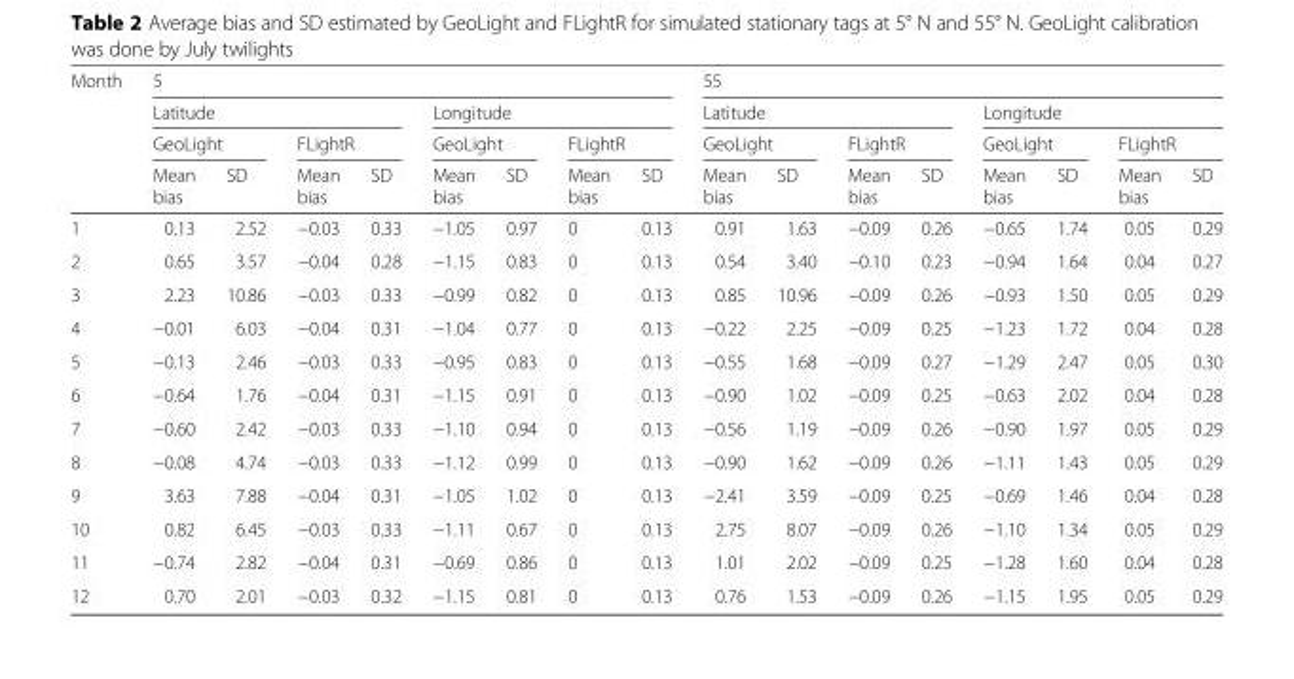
<table><thead><tr><td rowspan="4">Month</td><td colspan="8">5</td><td colspan="8">55</td></tr><tr><td colspan="4">Latitude</td><td colspan="4">Longitude</td><td colspan="4">Latitude</td><td colspan="4">Longitude</td></tr><tr><td colspan="2">GeoLight</td><td colspan="2">FLightR</td><td colspan="2">GeoLight</td><td colspan="2">FLightR</td><td colspan="2">GeoLight</td><td colspan="2">FLightR</td><td colspan="2">GeoLight</td><td colspan="2">FLightR</td></tr><tr><td>Mean bias</td><td>SD</td><td>Mean bias</td><td>SD</td><td>Mean bias</td><td>SD</td><td>Mean bias</td><td>SD</td><td>Mean bias</td><td>SD</td><td>Mean bias</td><td>SD</td><td>Mean bias</td><td>SD</td><td>Mean bias</td><td>SD</td></tr></thead><tbody><tr><td>1</td><td>0.13</td><td>2.52</td><td>−0.03</td><td>0.33</td><td>−1.05</td><td>0.97</td><td>0</td><td>0.13</td><td>0.91</td><td>1.63</td><td>−0.09</td><td>0.26</td><td>−0.65</td><td>1.74</td><td>0.05</td><td>0.29</td></tr><tr><td>2</td><td>0.65</td><td>3.57</td><td>−0.04</td><td>0.28</td><td>−1.15</td><td>0.83</td><td>0</td><td>0.13</td><td>0.54</td><td>3.40</td><td>−0.10</td><td>0.23</td><td>−0.94</td><td>1.64</td><td>0.04</td><td>0.27</td></tr><tr><td>3</td><td>2.23</td><td>10.86</td><td>−0.03</td><td>0.33</td><td>−0.99</td><td>0.82</td><td>0</td><td>0.13</td><td>0.85</td><td>10.96</td><td>−0.09</td><td>0.26</td><td>−0.93</td><td>1.50</td><td>0.05</td><td>0.29</td></tr><tr><td>4</td><td>−0.01</td><td>6.03</td><td>−0.04</td><td>0.31</td><td>−1.04</td><td>0.77</td><td>0</td><td>0.13</td><td>−0.22</td><td>2.25</td><td>−0.09</td><td>0.25</td><td>−1.23</td><td>1.72</td><td>0.04</td><td>0.28</td></tr><tr><td>5</td><td>−0.13</td><td>2.46</td><td>−0.03</td><td>0.33</td><td>−0.95</td><td>0.83</td><td>0</td><td>0.13</td><td>−0.55</td><td>1.68</td><td>−0.09</td><td>0.27</td><td>−1.29</td><td>2.47</td><td>0.05</td><td>0.30</td></tr><tr><td>6</td><td>−0.64</td><td>1.76</td><td>−0.04</td><td>0.31</td><td>−1.15</td><td>0.91</td><td>0</td><td>0.13</td><td>−0.90</td><td>1.02</td><td>−0.09</td><td>0.25</td><td>−0.63</td><td>2.02</td><td>0.04</td><td>0.28</td></tr><tr><td>7</td><td>−0.60</td><td>2.42</td><td>−0.03</td><td>0.33</td><td>−1.10</td><td>0.94</td><td>0</td><td>0.13</td><td>−0.56</td><td>1.19</td><td>−0.09</td><td>0.26</td><td>−0.90</td><td>1.97</td><td>0.05</td><td>0.29</td></tr><tr><td>8</td><td>−0.08</td><td>4.74</td><td>−0.03</td><td>0.33</td><td>−1.12</td><td>0.99</td><td>0</td><td>0.13</td><td>−0.90</td><td>1.62</td><td>−0.09</td><td>0.26</td><td>−1.11</td><td>1.43</td><td>0.05</td><td>0.29</td></tr><tr><td>9</td><td>3.63</td><td>7.88</td><td>−0.04</td><td>0.31</td><td>−1.05</td><td>1.02</td><td>0</td><td>0.13</td><td>−2.41</td><td>3.59</td><td>−0.09</td><td>0.25</td><td>−0.69</td><td>1.46</td><td>0.04</td><td>0.28</td></tr><tr><td>10</td><td>0.82</td><td>6.45</td><td>−0.03</td><td>0.33</td><td>−1.11</td><td>0.67</td><td>0</td><td>0.13</td><td>2.75</td><td>8.07</td><td>−0.09</td><td>0.26</td><td>−1.10</td><td>1.34</td><td>0.05</td><td>0.29</td></tr><tr><td>11</td><td>−0.74</td><td>2.82</td><td>−0.04</td><td>0.31</td><td>−0.69</td><td>0.86</td><td>0</td><td>0.13</td><td>1.01</td><td>2.02</td><td>−0.09</td><td>0.25</td><td>−1.28</td><td>1.60</td><td>0.04</td><td>0.28</td></tr><tr><td>12</td><td>0.70</td><td>2.01</td><td>−0.03</td><td>0.32</td><td>−1.15</td><td>0.81</td><td>0</td><td>0.13</td><td>0.76</td><td>1.53</td><td>−0.09</td><td>0.26</td><td>−1.15</td><td>1.95</td><td>0.05</td><td>0.29</td></tr></tbody></table>